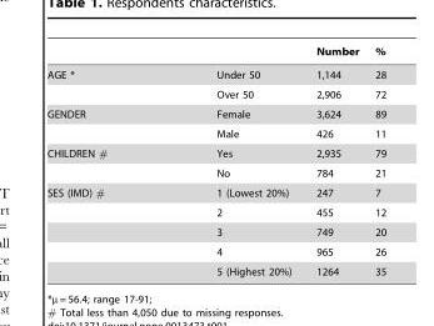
<table><thead><tr><td></td><td></td><td>Number</td><td>%</td></tr></thead><tbody><tr><td rowspan="2">AGE *</td><td>Under 50</td><td>1,144</td><td>28</td></tr><tr><td>Over 50</td><td>2,906</td><td>72</td></tr><tr><td rowspan="2">GENDER</td><td>Female</td><td>3,624</td><td>89</td></tr><tr><td>Male</td><td>426</td><td>11</td></tr><tr><td rowspan="2">CHILDREN #</td><td>Yes</td><td>2,935</td><td>79</td></tr><tr><td>No</td><td>784</td><td>21</td></tr><tr><td rowspan="5">SES (IMD) #</td><td>1 (Lowest 20%)</td><td>247</td><td>7</td></tr><tr><td>2</td><td>455</td><td>12</td></tr><tr><td>3</td><td>749</td><td>20</td></tr><tr><td>4</td><td>965</td><td>26</td></tr><tr><td>5 (Highest 20%)</td><td>1264</td><td>35</td></tr></tbody></table>